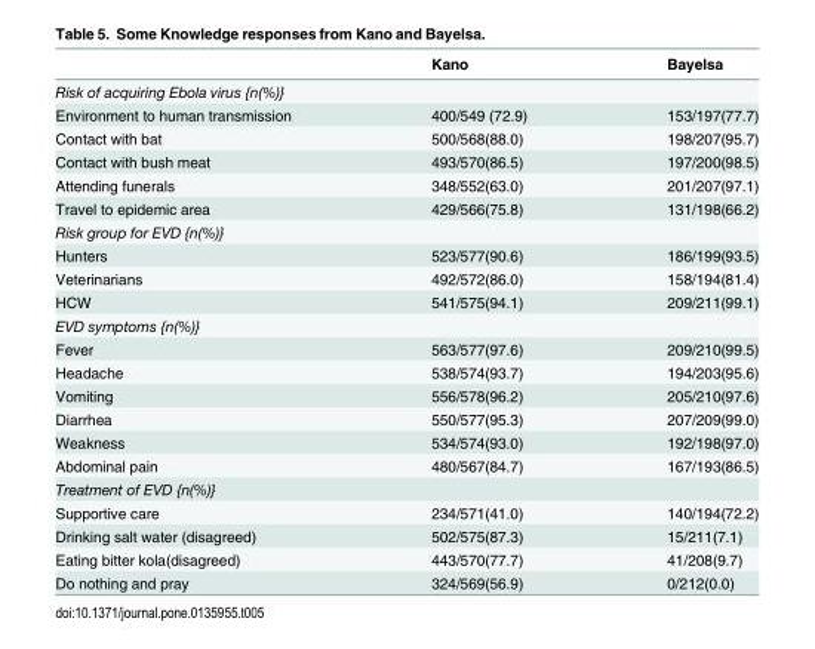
<table><thead><tr><td></td><td>Kano</td><td>Bayelsa</td></tr></thead><tbody><tr><td colspan="3">Risk of acquiring Ebola virus {n(%)}</td></tr><tr><td>Environment to human transmission</td><td>400/549 (72.9)</td><td>153/197(77.7)</td></tr><tr><td>Contact with bat</td><td>500/568(88.0)</td><td>198/207(95.7)</td></tr><tr><td>Contact with bush meat</td><td>493/570(86.5)</td><td>197/200(98.5)</td></tr><tr><td>Attending funerals</td><td>348/552(63.0)</td><td>201/207(97.1)</td></tr><tr><td>Travel to epidemic area</td><td>429/566(75.8)</td><td>131/198(66.2)</td></tr><tr><td colspan="3">Risk group for EVD {n(%)}</td></tr><tr><td>Hunters</td><td>523/577(90.6)</td><td>186/199(93.5)</td></tr><tr><td>Veterinarians</td><td>492/572(86.0)</td><td>158/194(81.4)</td></tr><tr><td>HCW</td><td>541/575(94.1)</td><td>209/211(99.1)</td></tr><tr><td colspan="3">EVD symptoms {n(%)}</td></tr><tr><td>Fever</td><td>563/577(97.6)</td><td>209/210(99.5)</td></tr><tr><td>Headache</td><td>538/574(93.7)</td><td>194/203(95.6)</td></tr><tr><td>Vomiting</td><td>556/578(96.2)</td><td>205/210(97.6)</td></tr><tr><td>Diarrhea</td><td>550/577(95.3)</td><td>207/209(99.0)</td></tr><tr><td>Weakness</td><td>534/574(93.0)</td><td>192/198(97.0)</td></tr><tr><td>Abdominal pain</td><td>480/567(84.7)</td><td>167/193(86.5)</td></tr><tr><td colspan="3">Treatment of EVD {n(%)}</td></tr><tr><td>Supportive care</td><td>234/571(41.0)</td><td>140/194(72.2)</td></tr><tr><td>Drinking salt water (disagreed)</td><td>502/575(87.3)</td><td>15/211(7.1)</td></tr><tr><td>Eating bitter kola(disagreed)</td><td>443/570(77.7)</td><td>41/208(9.7)</td></tr><tr><td>Do nothing and pray</td><td>324/569(56.9)</td><td>0/212(0.0)</td></tr></tbody></table>